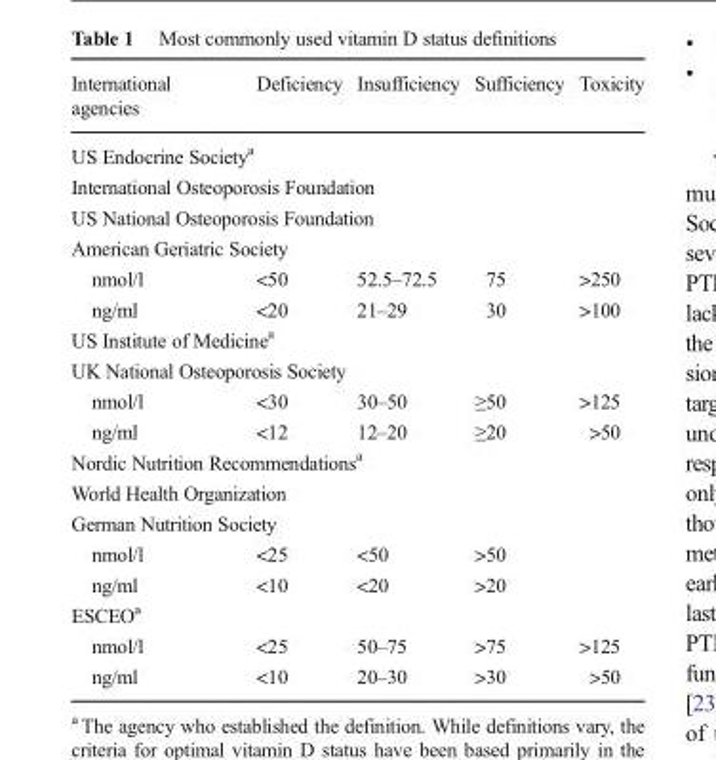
<table><thead><tr><td>International agencies</td><td>Deficiency</td><td>Insufficiency</td><td>Sufficiency</td><td>Toxicity</td></tr></thead><tbody><tr><td colspan="5">US Endocrine Society<sup>a</sup></td></tr><tr><td colspan="5">International Osteoporosis Foundation</td></tr><tr><td colspan="5">US National Osteoporosis Foundation</td></tr><tr><td colspan="5">American Geriatric Society</td></tr><tr><td>nmol/l</td><td>&lt;50</td><td>52.5–72.5</td><td>75</td><td>&gt;250</td></tr><tr><td>ng/ml</td><td>&lt;20</td><td>21–29</td><td>30</td><td>&gt;100</td></tr><tr><td colspan="5">US Institute of Medicine<sup>a</sup></td></tr><tr><td colspan="5">UK National Osteoporosis Society</td></tr><tr><td>nmol/l</td><td>&lt;30</td><td>30–50</td><td>≥50</td><td>&gt;125</td></tr><tr><td>ng/ml</td><td>&lt;12</td><td>12–20</td><td>≥20</td><td>&gt;50</td></tr><tr><td colspan="5">Nordic Nutrition Recommendations<sup>a</sup></td></tr><tr><td colspan="5">World Health Organization</td></tr><tr><td colspan="5">German Nutrition Society</td></tr><tr><td>nmol/l</td><td>&lt;25</td><td>&lt;50</td><td>&gt;50</td><td></td></tr><tr><td>ng/ml</td><td>&lt;10</td><td>&lt;20</td><td>&gt;20</td><td></td></tr><tr><td colspan="5">ESCEO<sup>a</sup></td></tr><tr><td>nmol/l</td><td>&lt;25</td><td>50–75</td><td>&gt;75</td><td>&gt;125</td></tr><tr><td>ng/ml</td><td>&lt;10</td><td>20–30</td><td>&gt;30</td><td>&gt;50</td></tr></tbody></table>